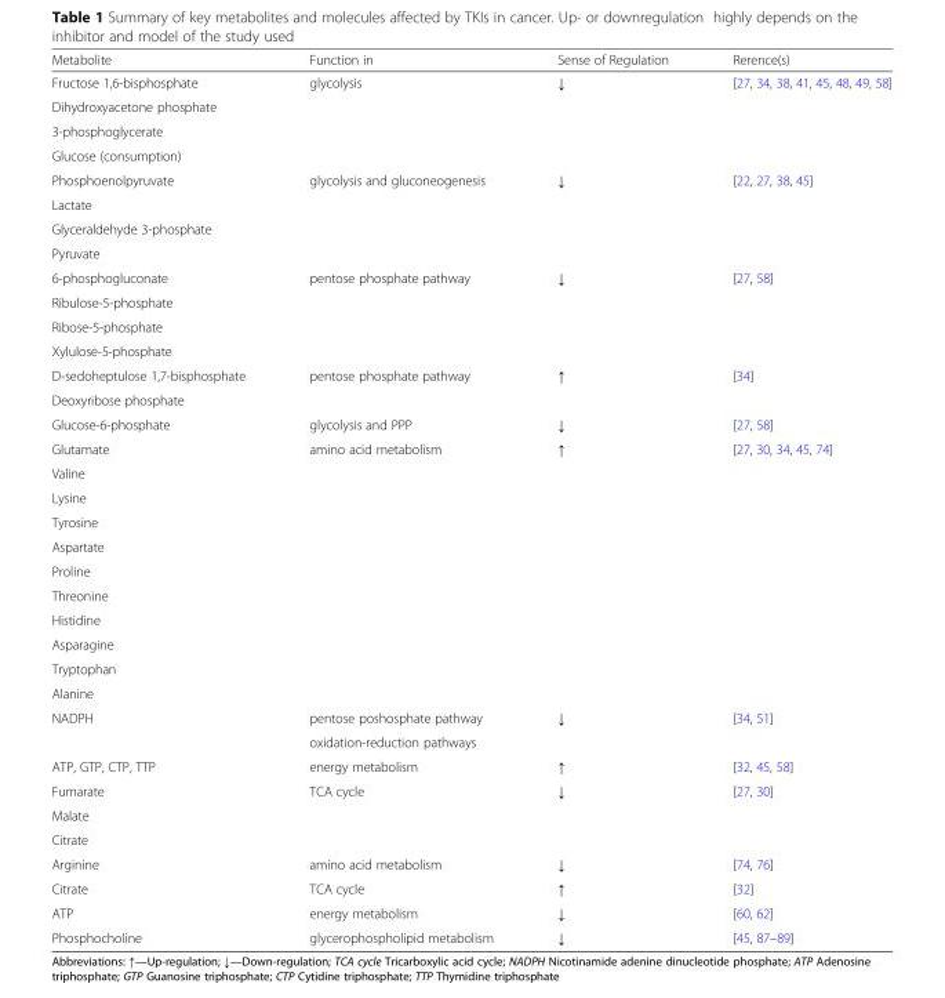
<table><thead><tr><td>Metabolite</td><td>Function in</td><td>Sense of Regulation</td><td>Rerence(s)</td></tr></thead><tbody><tr><td>Fructose 1,6-bisphosphate</td><td rowspan="4">glycolysis</td><td rowspan="4">↓</td><td rowspan="4">[27, 34, 38, 41, 45, 48, 49, 58]</td></tr><tr><td>Dihydroxyacetone phosphate</td></tr><tr><td>3-phosphoglycerate</td></tr><tr><td>Glucose (consumption)</td></tr><tr><td>Phosphoenolpyruvate</td><td rowspan="4">glycolysis and gluconeogenesis</td><td rowspan="4">↓</td><td rowspan="4">[22, 27, 38, 45]</td></tr><tr><td>Lactate</td></tr><tr><td>Glyceraldehyde 3-phosphate</td></tr><tr><td>Pyruvate</td></tr><tr><td>6-phosphogluconate</td><td rowspan="4">pentose phosphate pathway</td><td rowspan="4">↓</td><td rowspan="4">[27, 58]</td></tr><tr><td>Ribulose-5-phosphate</td></tr><tr><td>Ribose-5-phosphate</td></tr><tr><td>Xylulose-5-phosphate</td></tr><tr><td>D-sedoheptulose 1,7-bisphosphate</td><td rowspan="2">pentose phosphate pathway</td><td rowspan="2">↑</td><td rowspan="2">[34]</td></tr><tr><td>Deoxyribose phosphate</td></tr><tr><td>Glucose-6-phosphate</td><td>glycolysis and PPP</td><td>↓</td><td>[27, 58]</td></tr><tr><td>Glutamate</td><td rowspan="11">amino acid metabolism</td><td rowspan="11">↑</td><td rowspan="11">[27, 30, 34, 45, 74]</td></tr><tr><td>Valine</td></tr><tr><td>Lysine</td></tr><tr><td>Tyrosine</td></tr><tr><td>Aspartate</td></tr><tr><td>Proline</td></tr><tr><td>Threonine</td></tr><tr><td>Histidine</td></tr><tr><td>Asparagine</td></tr><tr><td>Tryptophan</td></tr><tr><td>Alanine</td></tr><tr><td rowspan="2">NADPH</td><td>pentose poshosphate pathway</td><td rowspan="2">↓</td><td rowspan="2">[34, 51]</td></tr><tr><td>oxidation-reduction pathways</td></tr><tr><td>ATP, GTP, CTP, TTP</td><td>energy metabolism</td><td>↑</td><td>[32, 45, 58]</td></tr><tr><td>Fumarate</td><td rowspan="3">TCA cycle</td><td rowspan="3">↓</td><td rowspan="3">[27, 30]</td></tr><tr><td>Malate</td></tr><tr><td>Citrate</td></tr><tr><td>Arginine</td><td>amino acid metabolism</td><td>↓</td><td>[74, 76]</td></tr><tr><td>Citrate</td><td>TCA cycle</td><td>↑</td><td>[32]</td></tr><tr><td>ATP</td><td>energy metabolism</td><td>↓</td><td>[60, 62]</td></tr><tr><td>Phosphocholine</td><td>glycerophospholipid metabolism</td><td>↓</td><td>[45, 87–89]</td></tr></tbody></table>